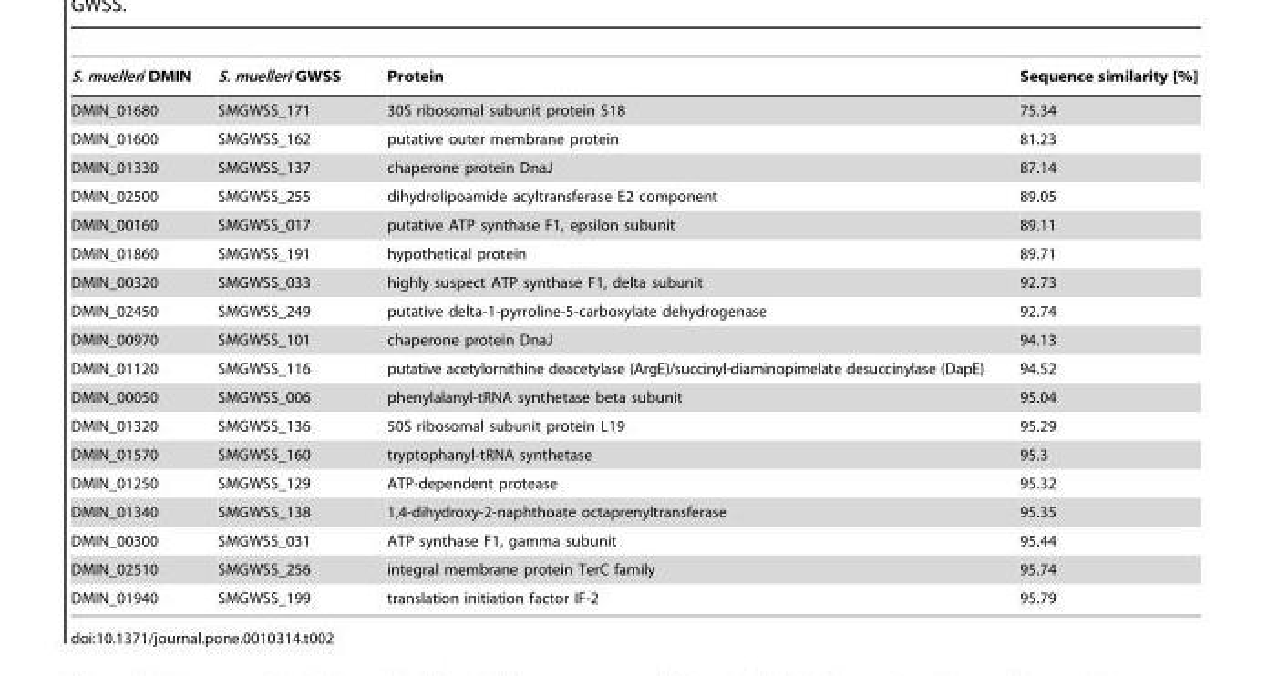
<table><thead><tr><td>S. muelleri DMIN</td><td>S. muelleri GWSS</td><td>Protein</td><td>Sequence similarity [%]</td></tr></thead><tbody><tr><td>DMIN_01680</td><td>SMGWSS_171</td><td>30S ribosomal subunit protein S18</td><td>75.34</td></tr><tr><td>DMIN_01600</td><td>SMGWSS_162</td><td>putative outer membrane protein</td><td>81.23</td></tr><tr><td>DMIN_01330</td><td>SMGWSS_137</td><td>chaperone protein DnaJ</td><td>87.14</td></tr><tr><td>DMIN_02500</td><td>SMGWSS_255</td><td>dihydrolipoamide acyltransferase E2 component</td><td>89.05</td></tr><tr><td>DMIN_00160</td><td>SMGWSS_017</td><td>putative ATP synthase F1, epsilon subunit</td><td>89.11</td></tr><tr><td>DMIN_01860</td><td>SMGWSS_191</td><td>hypothetical protein</td><td>89.71</td></tr><tr><td>DMIN_00320</td><td>SMGWSS_033</td><td>highly suspect ATP synthase F1, delta subunit</td><td>92.73</td></tr><tr><td>DMIN_02450</td><td>SMGWSS_249</td><td>putative delta-1-pyrroline-5-carboxylate dehydrogenase</td><td>92.74</td></tr><tr><td>DMIN_00970</td><td>SMGWSS_101</td><td>chaperone protein DnaJ</td><td>94.13</td></tr><tr><td>DMIN_01120</td><td>SMGWSS_116</td><td>putative acetylornithine deacetylase (ArgE)/succinyl-diaminopimelate desuccinylase (DapE)</td><td>94.52</td></tr><tr><td>DMIN_00050</td><td>SMGWSS_006</td><td>phenylalanyl-tRNA synthetase beta subunit</td><td>95.04</td></tr><tr><td>DMIN_01320</td><td>SMGWSS_136</td><td>50S ribosomal subunit protein L19</td><td>95.29</td></tr><tr><td>DMIN_01570</td><td>SMGWSS_160</td><td>tryptophanyl-tRNA synthetase</td><td>95.3</td></tr><tr><td>DMIN_01250</td><td>SMGWSS_129</td><td>ATP-dependent protease</td><td>95.32</td></tr><tr><td>DMIN_01340</td><td>SMGWSS_138</td><td>1,4-dihydroxy-2-naphthoate octaprenyltransferase</td><td>95.35</td></tr><tr><td>DMIN_00300</td><td>SMGWSS_031</td><td>ATP synthase F1, gamma subunit</td><td>95.44</td></tr><tr><td>DMIN_02510</td><td>SMGWSS_256</td><td>integral membrane protein TerC family</td><td>95.74</td></tr><tr><td>DMIN_01940</td><td>SMGWSS_199</td><td>translation initiation factor IF-2</td><td>95.79</td></tr></tbody></table>